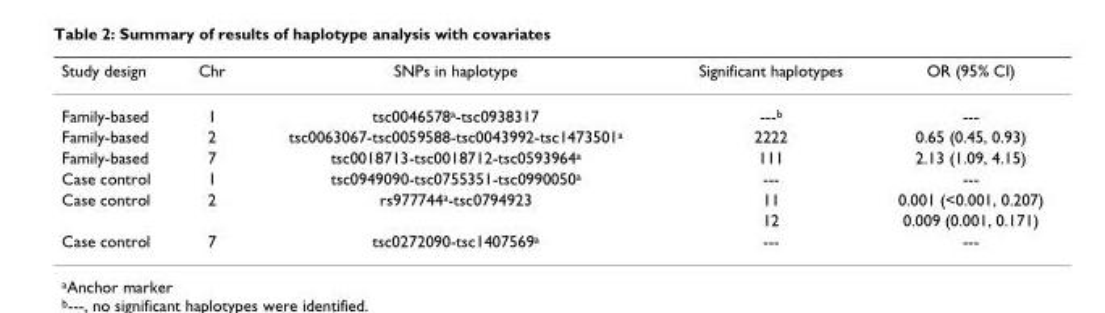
<table><thead><tr><td>Study design</td><td>Chr</td><td>SNPs in haplotype</td><td>Significant haplotypes</td><td>OR (95% CI)</td></tr></thead><tbody><tr><td>Family-based</td><td>1</td><td>tsc0046578a-tsc0938317</td><td>---b</td><td>---</td></tr><tr><td>Family-based</td><td>2</td><td>tsc0063067-tsc0059588-tsc0043992-tsc1473501a</td><td>2222</td><td>0.65 (0.45, 0.93)</td></tr><tr><td>Family-based</td><td>7</td><td>tsc0018713-tsc0018712-tsc0593964a</td><td>111</td><td>2.13 (1.09, 4.15)</td></tr><tr><td>Case control</td><td>1</td><td>tsc0949090-tsc0755351-tsc0990050a</td><td>---</td><td>---</td></tr><tr><td rowspan="2">Case control</td><td>2</td><td>rs977744a-tsc0794923</td><td>11</td><td>0.001 (&lt;0.001, 0.207)</td></tr><tr><td></td><td></td><td>12</td><td>0.009 (0.001, 0.171)</td></tr><tr><td>Case control</td><td>7</td><td>tsc0272090-tsc1407569a</td><td>---</td><td>---</td></tr></tbody></table>